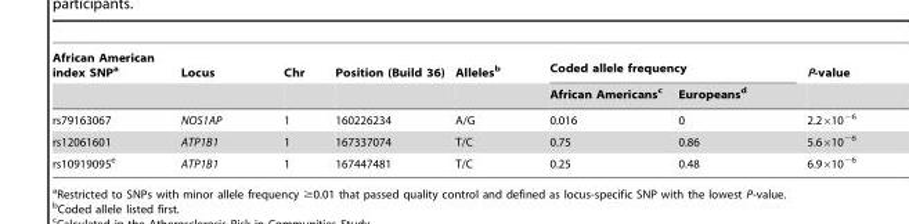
<table><thead><tr><td rowspan="2">African American index SNP<sup>a</sup></td><td rowspan="2">Locus</td><td rowspan="2">Chr</td><td rowspan="2">Position (Build 36)</td><td rowspan="2">Alleles<sup>b</sup></td><td colspan="2">Coded allele frequency</td><td rowspan="2">P-value</td></tr><tr><td>African Americans<sup>c</sup></td><td>Europeans<sup>d</sup></td></tr></thead><tbody><tr><td>rs79163067</td><td>NOS1AP</td><td>1</td><td>160226234</td><td>A/G</td><td>0.016</td><td>0</td><td>2.2×10<sup>−6</sup></td></tr><tr><td>rs12061601</td><td>ATP1B1</td><td>1</td><td>167337074</td><td>T/C</td><td>0.75</td><td>0.86</td><td>5.6×10<sup>−6</sup></td></tr><tr><td>rs10919095<sup>e</sup></td><td>ATP1B1</td><td>1</td><td>167447481</td><td>T/C</td><td>0.25</td><td>0.48</td><td>6.9×10<sup>−6</sup></td></tr></tbody></table>